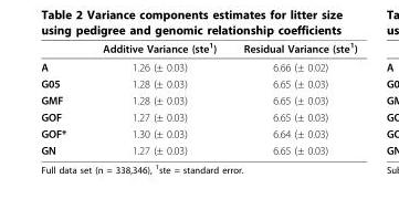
<table><thead><tr><td></td><td>Additive Variance (ste<sup>1</sup>)</td><td>Residual Variance (ste<sup>1</sup>)</td></tr></thead><tbody><tr><td>A</td><td>1.26 (± 0.03)</td><td>6.66 (± 0.02)</td></tr><tr><td>G05</td><td>1.28 (± 0.03)</td><td>6.65 (± 0.03)</td></tr><tr><td>GMF</td><td>1.28 (± 0.03)</td><td>6.65 (± 0.03)</td></tr><tr><td>GOF</td><td>1.27 (± 0.03)</td><td>6.65 (± 0.03)</td></tr><tr><td>GOF*</td><td>1.30 (± 0.03)</td><td>6.64 (± 0.03)</td></tr><tr><td>GN</td><td>1.27 (± 0.03)</td><td>6.65 (± 0.03)</td></tr></tbody></table>